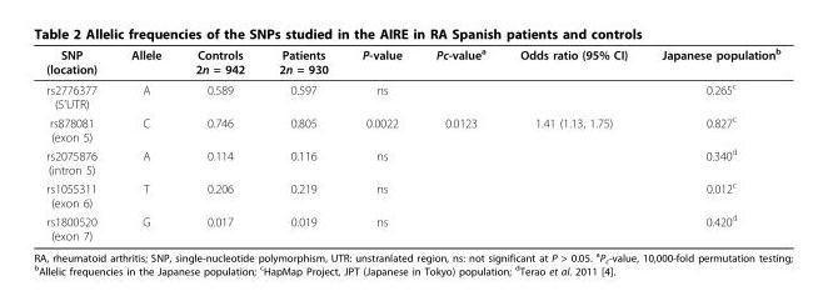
<table><thead><tr><td>SNP (location)</td><td>Allele</td><td>Controls 2n = 942</td><td>Patients 2n = 930</td><td>P-value</td><td>Pc-value<sup>a</sup></td><td>Odds ratio (95% CI)</td><td>Japanese population<sup>b</sup></td></tr></thead><tbody><tr><td>rs2776377 (5’UTR)</td><td>A</td><td>0.589</td><td>0.597</td><td>ns</td><td></td><td></td><td>0.265<sup>c</sup></td></tr><tr><td>rs878081 (exon 5)</td><td>C</td><td>0.746</td><td>0.805</td><td>0.0022</td><td>0.0123</td><td>1.41 (1.13, 1.75)</td><td>0.827<sup>c</sup></td></tr><tr><td>rs2075876 (intron 5)</td><td>A</td><td>0.114</td><td>0.116</td><td>ns</td><td></td><td></td><td>0.340<sup>d</sup></td></tr><tr><td>rs1055311 (exon 6)</td><td>T</td><td>0.206</td><td>0.219</td><td>ns</td><td></td><td></td><td>0.012<sup>c</sup></td></tr><tr><td>rs1800520 (exon 7)</td><td>G</td><td>0.017</td><td>0.019</td><td>ns</td><td></td><td></td><td>0.420<sup>d</sup></td></tr></tbody></table>